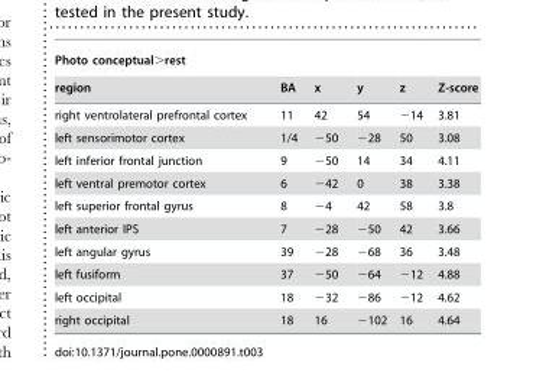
<table><thead><tr><td colspan="6">Photo conceptual&gt;rest</td></tr><tr><td>region</td><td>BA</td><td>x</td><td>y</td><td>z</td><td>Z-score</td></tr></thead><tbody><tr><td>right ventrolateral prefrontal cortex</td><td>11</td><td>42</td><td>54</td><td>−14</td><td>3.81</td></tr><tr><td>left sensorimotor cortex</td><td>1/4</td><td>−50</td><td>−28</td><td>50</td><td>3.08</td></tr><tr><td>left inferior frontal junction</td><td>9</td><td>−50</td><td>14</td><td>34</td><td>4.11</td></tr><tr><td>left ventral premotor cortex</td><td>6</td><td>−42</td><td>0</td><td>38</td><td>3.38</td></tr><tr><td>left superior frontal gyrus</td><td>8</td><td>−4</td><td>42</td><td>58</td><td>3.8</td></tr><tr><td>left anterior IPS</td><td>7</td><td>−28</td><td>−50</td><td>42</td><td>3.66</td></tr><tr><td>left angular gyrus</td><td>39</td><td>−28</td><td>−68</td><td>36</td><td>3.48</td></tr><tr><td>left fusiform</td><td>37</td><td>−50</td><td>−64</td><td>−12</td><td>4.88</td></tr><tr><td>left occipital</td><td>18</td><td>−32</td><td>−86</td><td>−12</td><td>4.62</td></tr><tr><td>right occipital</td><td>18</td><td>16</td><td>−102</td><td>16</td><td>4.64</td></tr></tbody></table>